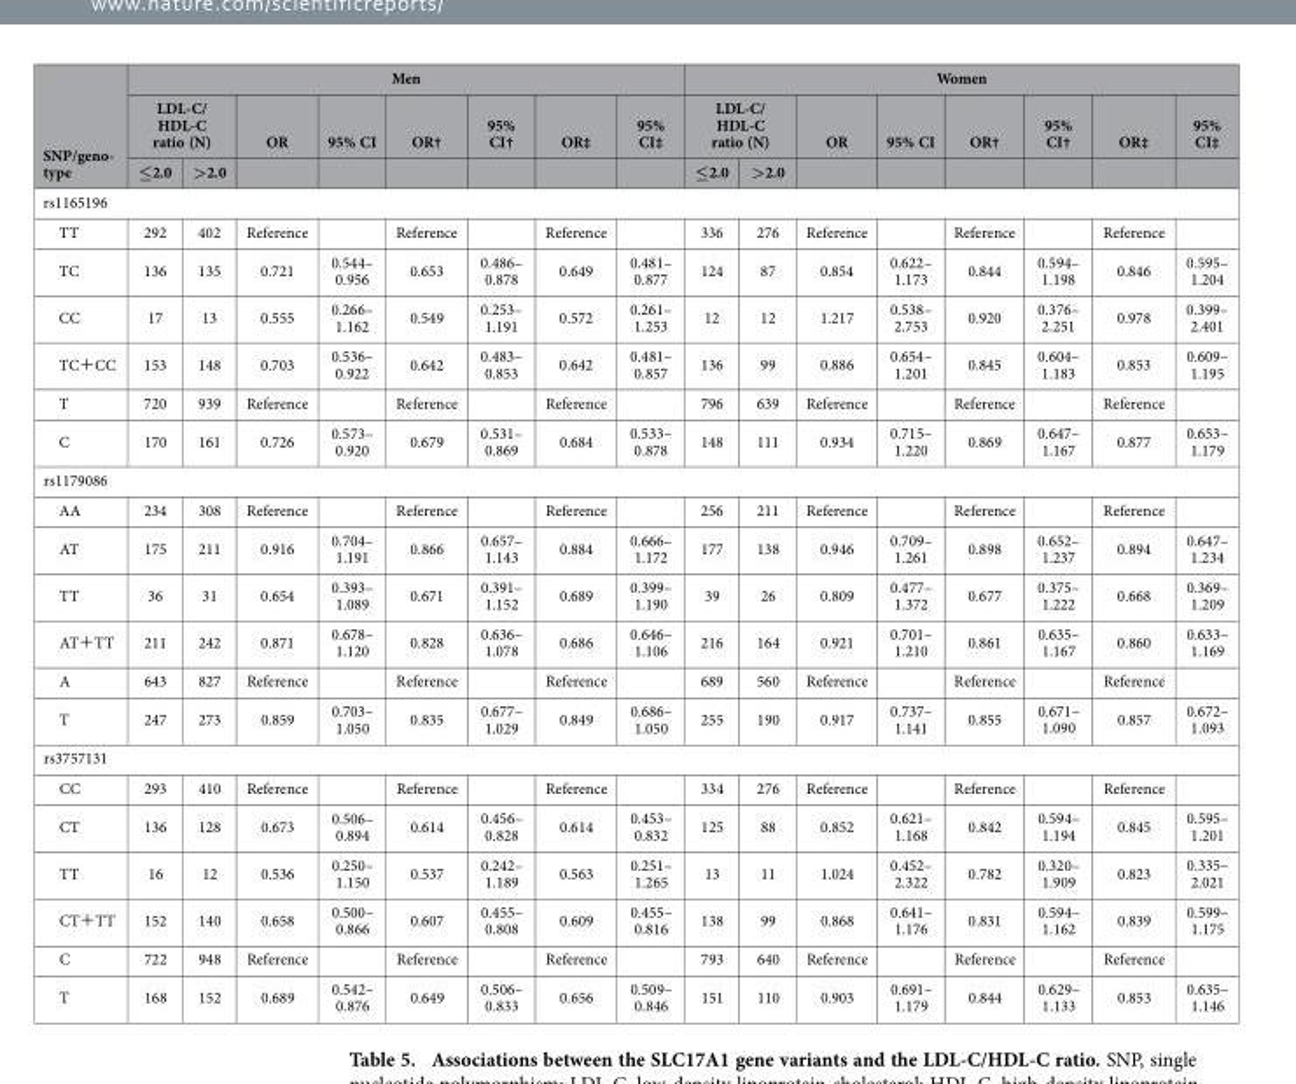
<table><thead><tr><td rowspan="3">SNP/geno- type</td><td colspan="8">Men</td><td colspan="8">Women</td></tr><tr><td colspan="2">LDL-C/ HDL-C ratio (N)</td><td rowspan="2">OR</td><td rowspan="2">95% CI</td><td rowspan="2">OR†</td><td rowspan="2">95% CI†</td><td rowspan="2">OR‡</td><td rowspan="2">95% CI‡</td><td colspan="2">LDL-C/ HDL-C ratio (N)</td><td rowspan="2">OR</td><td rowspan="2">95% CI</td><td rowspan="2">OR†</td><td rowspan="2">95% CI†</td><td rowspan="2">OR‡</td><td rowspan="2">95% CI‡</td></tr><tr><td>≤2.0</td><td>&gt;2.0</td><td>≤2.0</td><td>&gt;2.0</td></tr></thead><tbody><tr><td colspan="17">rs1165196</td></tr><tr><td>TT</td><td>292</td><td>402</td><td>Reference</td><td></td><td>Reference</td><td></td><td>Reference</td><td></td><td>336</td><td>276</td><td>Reference</td><td></td><td>Reference</td><td></td><td>Reference</td><td></td></tr><tr><td>TC</td><td>136</td><td>135</td><td>0.721</td><td>0.544– 0.956</td><td>0.653</td><td>0.486– 0.878</td><td>0.649</td><td>0.481– 0.877</td><td>124</td><td>87</td><td>0.854</td><td>0.622– 1.173</td><td>0.844</td><td>0.594– 1.198</td><td>0.846</td><td>0.595– 1.204</td></tr><tr><td>CC</td><td>17</td><td>13</td><td>0.555</td><td>0.266– 1.162</td><td>0.549</td><td>0.253– 1.191</td><td>0.572</td><td>0.261– 1.253</td><td>12</td><td>12</td><td>1.217</td><td>0.538– 2.753</td><td>0.920</td><td>0.376– 2.251</td><td>0.978</td><td>0.399– 2.401</td></tr><tr><td>TC＋CC</td><td>153</td><td>148</td><td>0.703</td><td>0.536– 0.922</td><td>0.642</td><td>0.483– 0.853</td><td>0.642</td><td>0.481– 0.857</td><td>136</td><td>99</td><td>0.886</td><td>0.654– 1.201</td><td>0.845</td><td>0.604– 1.183</td><td>0.853</td><td>0.609– 1.195</td></tr><tr><td>T</td><td>720</td><td>939</td><td>Reference</td><td></td><td>Reference</td><td></td><td>Reference</td><td></td><td>796</td><td>639</td><td>Reference</td><td></td><td>Reference</td><td></td><td>Reference</td><td></td></tr><tr><td>C</td><td>170</td><td>161</td><td>0.726</td><td>0.573– 0.920</td><td>0.679</td><td>0.531– 0.869</td><td>0.684</td><td>0.533– 0.878</td><td>148</td><td>111</td><td>0.934</td><td>0.715– 1.220</td><td>0.869</td><td>0.647– 1.167</td><td>0.877</td><td>0.653– 1.179</td></tr><tr><td colspan="17">rs1179086</td></tr><tr><td>AA</td><td>234</td><td>308</td><td>Reference</td><td></td><td>Reference</td><td></td><td>Reference</td><td></td><td>256</td><td>211</td><td>Reference</td><td></td><td>Reference</td><td></td><td>Reference</td><td></td></tr><tr><td>AT</td><td>175</td><td>211</td><td>0.916</td><td>0.704– 1.191</td><td>0.866</td><td>0.657– 1.143</td><td>0.884</td><td>0.666– 1.172</td><td>177</td><td>138</td><td>0.946</td><td>0.709– 1.261</td><td>0.898</td><td>0.652– 1.237</td><td>0.894</td><td>0.647– 1.234</td></tr><tr><td>TT</td><td>36</td><td>31</td><td>0.654</td><td>0.393– 1.089</td><td>0.671</td><td>0.391– 1.152</td><td>0.689</td><td>0.399– 1.190</td><td>39</td><td>26</td><td>0.809</td><td>0.477– 1.372</td><td>0.677</td><td>0.375– 1.222</td><td>0.668</td><td>0.369– 1.209</td></tr><tr><td>AT＋TT</td><td>211</td><td>242</td><td>0.871</td><td>0.678– 1.120</td><td>0.828</td><td>0.636– 1.078</td><td>0.686</td><td>0.646– 1.106</td><td>216</td><td>164</td><td>0.921</td><td>0.701– 1.210</td><td>0.861</td><td>0.635– 1.167</td><td>0.860</td><td>0.633– 1.169</td></tr><tr><td>A</td><td>643</td><td>827</td><td>Reference</td><td></td><td>Reference</td><td></td><td>Reference</td><td></td><td>689</td><td>560</td><td>Reference</td><td></td><td>Reference</td><td></td><td>Reference</td><td></td></tr><tr><td>T</td><td>247</td><td>273</td><td>0.859</td><td>0.703– 1.050</td><td>0.835</td><td>0.677– 1.029</td><td>0.849</td><td>0.686– 1.050</td><td>255</td><td>190</td><td>0.917</td><td>0.737– 1.141</td><td>0.855</td><td>0.671– 1.090</td><td>0.857</td><td>0.672– 1.093</td></tr><tr><td colspan="17">rs3757131</td></tr><tr><td>CC</td><td>293</td><td>410</td><td>Reference</td><td></td><td>Reference</td><td></td><td>Reference</td><td></td><td>334</td><td>276</td><td>Reference</td><td></td><td>Reference</td><td></td><td>Reference</td><td></td></tr><tr><td>CT</td><td>136</td><td>128</td><td>0.673</td><td>0.506– 0.894</td><td>0.614</td><td>0.456– 0.828</td><td>0.614</td><td>0.453– 0.832</td><td>125</td><td>88</td><td>0.852</td><td>0.621– 1.168</td><td>0.842</td><td>0.594– 1.194</td><td>0.845</td><td>0.595– 1.201</td></tr><tr><td>TT</td><td>16</td><td>12</td><td>0.536</td><td>0.250– 1.150</td><td>0.537</td><td>0.242– 1.189</td><td>0.563</td><td>0.251– 1.265</td><td>13</td><td>11</td><td>1.024</td><td>0.452– 2.322</td><td>0.782</td><td>0.320– 1.909</td><td>0.823</td><td>0.335– 2.021</td></tr><tr><td>CT＋TT</td><td>152</td><td>140</td><td>0.658</td><td>0.500– 0.866</td><td>0.607</td><td>0.455– 0.808</td><td>0.609</td><td>0.455– 0.816</td><td>138</td><td>99</td><td>0.868</td><td>0.641– 1.176</td><td>0.831</td><td>0.594– 1.162</td><td>0.839</td><td>0.599– 1.175</td></tr><tr><td>C</td><td>722</td><td>948</td><td>Reference</td><td></td><td>Reference</td><td></td><td>Reference</td><td></td><td>793</td><td>640</td><td>Reference</td><td></td><td>Reference</td><td></td><td>Reference</td><td></td></tr><tr><td>T</td><td>168</td><td>152</td><td>0.689</td><td>0.542– 0.876</td><td>0.649</td><td>0.506– 0.833</td><td>0.656</td><td>0.509– 0.846</td><td>151</td><td>110</td><td>0.903</td><td>0.691– 1.179</td><td>0.844</td><td>0.629– 1.133</td><td>0.853</td><td>0.635– 1.146</td></tr></tbody></table>